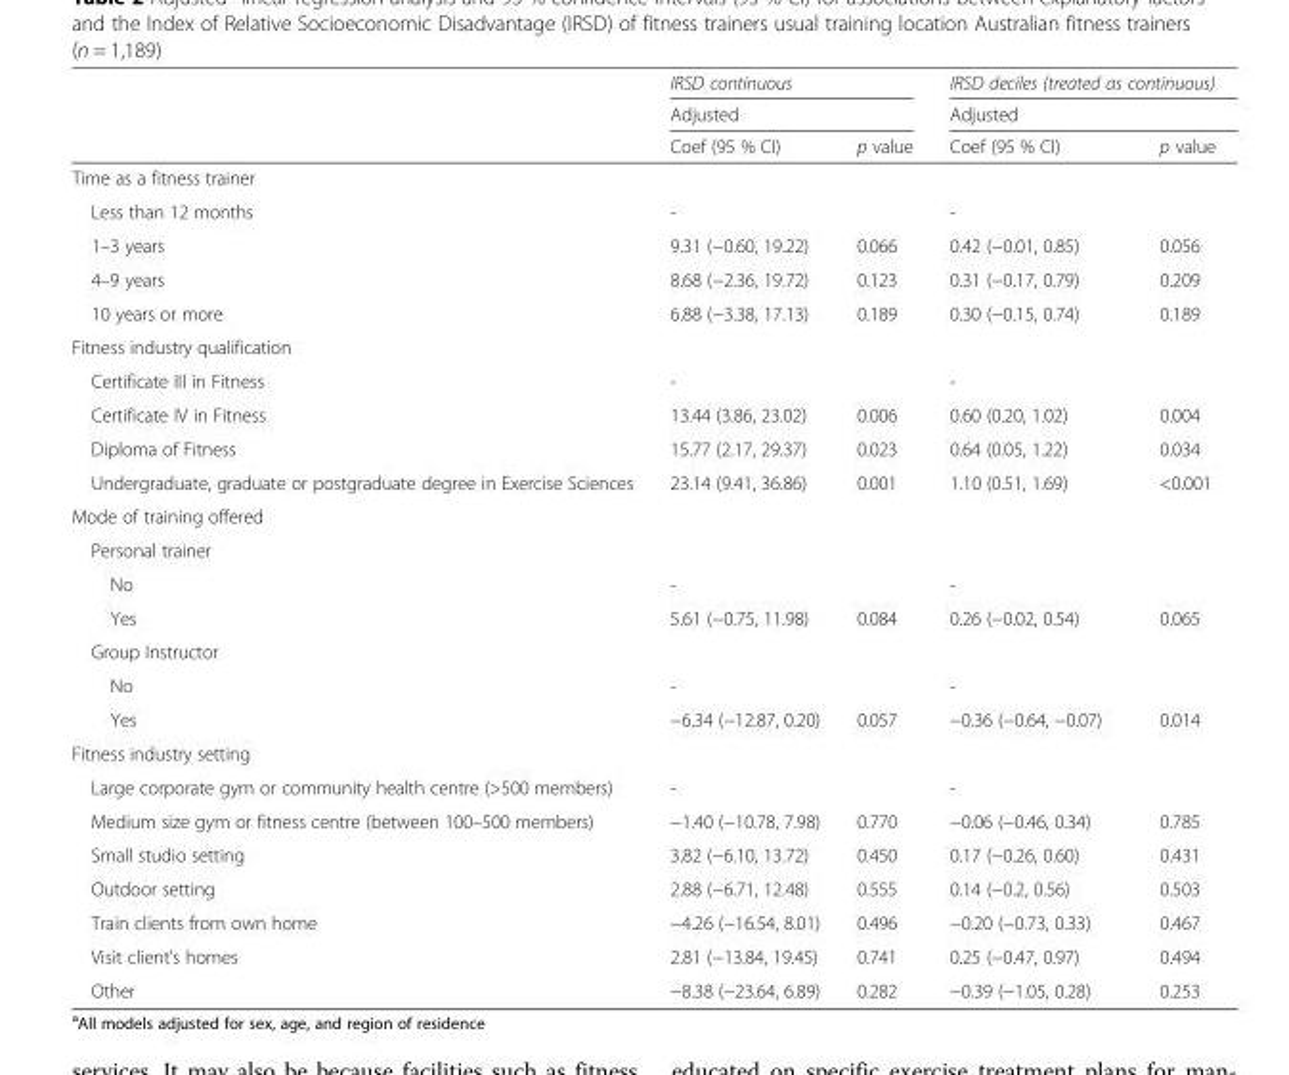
<table><thead><tr><td rowspan="3"></td><td rowspan="2" colspan="2">IRSD continuous Adjusted</td><td rowspan="2" colspan="2">IRSD deciles (treated as continuous) Adjusted</td></tr><tr></tr><tr><td>Coef (95 % CI)</td><td>p value</td><td>Coef (95 % CI)</td><td>p value</td></tr></thead><tbody><tr><td colspan="5">Time as a fitness trainer</td></tr><tr><td>Less than 12 months</td><td>-</td><td></td><td>-</td><td></td></tr><tr><td>1–3 years</td><td>9.31 (−0.60, 19.22)</td><td>0.066</td><td>0.42 (−0.01, 0.85)</td><td>0.056</td></tr><tr><td>4–9 years</td><td>8.68 (−2.36, 19.72)</td><td>0.123</td><td>0.31 (−0.17, 0.79)</td><td>0.209</td></tr><tr><td>10 years or more</td><td>6.88 (−3.38, 17.13)</td><td>0.189</td><td>0.30 (−0.15, 0.74)</td><td>0.189</td></tr><tr><td colspan="5">Fitness industry qualification</td></tr><tr><td>Certificate III in Fitness</td><td>-</td><td></td><td>-</td><td></td></tr><tr><td>Certificate IV in Fitness</td><td>13.44 (3.86, 23.02)</td><td>0.006</td><td>0.60 (0.20, 1.02)</td><td>0.004</td></tr><tr><td>Diploma of Fitness</td><td>15.77 (2.17, 29.37)</td><td>0.023</td><td>0.64 (0.05, 1.22)</td><td>0.034</td></tr><tr><td>Undergraduate, graduate or postgraduate degree in Exercise Sciences</td><td>23.14 (9.41, 36.86)</td><td>0.001</td><td>1.10 (0.51, 1.69)</td><td>&lt;0.001</td></tr><tr><td colspan="5">Mode of training offered</td></tr><tr><td colspan="5">Personal trainer</td></tr><tr><td>No</td><td>-</td><td></td><td>-</td><td></td></tr><tr><td>Yes</td><td>5.61 (−0.75, 11.98)</td><td>0.084</td><td>0.26 (−0.02, 0.54)</td><td>0.065</td></tr><tr><td colspan="5">Group Instructor</td></tr><tr><td>No</td><td>-</td><td></td><td>-</td><td></td></tr><tr><td>Yes</td><td>−6.34 (−12.87, 0.20)</td><td>0.057</td><td>−0.36 (−0.64, −0.07)</td><td>0.014</td></tr><tr><td colspan="5">Fitness industry setting</td></tr><tr><td>Large corporate gym or community health centre (&gt;500 members)</td><td>-</td><td></td><td>-</td><td></td></tr><tr><td>Medium size gym or fitness centre (between 100–500 members)</td><td>−1.40 (−10.78, 7.98)</td><td>0.770</td><td>−0.06 (−0.46, 0.34)</td><td>0.785</td></tr><tr><td>Small studio setting</td><td>3.82 (−6.10, 13.72)</td><td>0.450</td><td>0.17 (−0.26, 0.60)</td><td>0.431</td></tr><tr><td>Outdoor setting</td><td>2.88 (−6.71, 12.48)</td><td>0.555</td><td>0.14 (−0.2, 0.56)</td><td>0.503</td></tr><tr><td>Train clients from own home</td><td>−4.26 (−16.54, 8.01)</td><td>0.496</td><td>−0.20 (−0.73, 0.33)</td><td>0.467</td></tr><tr><td>Visit client’s homes</td><td>2.81 (−13.84, 19.45)</td><td>0.741</td><td>0.25 (−0.47, 0.97)</td><td>0.494</td></tr><tr><td>Other</td><td>−8.38 (−23.64, 6.89)</td><td>0.282</td><td>−0.39 (−1.05, 0.28)</td><td>0.253</td></tr></tbody></table>